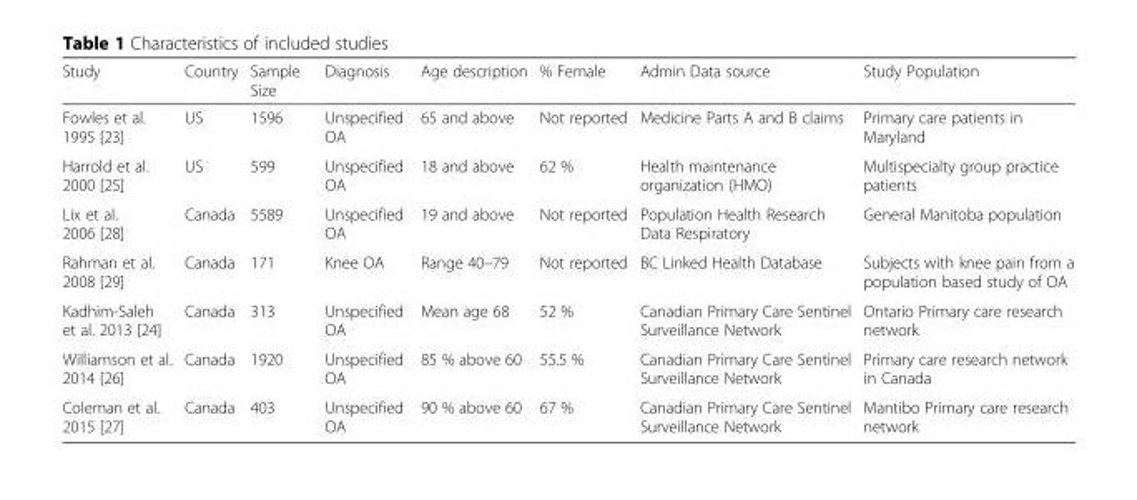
<table><thead><tr><td>Study</td><td>Country</td><td>Sample Size</td><td>Diagnosis</td><td>Age description</td><td>% Female</td><td>Admin Data source</td><td>Study Population</td></tr></thead><tbody><tr><td>Fowles et al. 1995 [23]</td><td>US</td><td>1596</td><td>Unspecified OA</td><td>65 and above</td><td>Not reported</td><td>Medicine Parts A and B claims</td><td>Primary care patients in Maryland</td></tr><tr><td>Harrold et al. 2000 [25]</td><td>US</td><td>599</td><td>Unspecified OA</td><td>18 and above</td><td>62 %</td><td>Health maintenance organization (HMO)</td><td>Multispecialty group practice patients</td></tr><tr><td>Lix et al. 2006 [28]</td><td>Canada</td><td>5589</td><td>Unspecified OA</td><td>19 and above</td><td>Not reported</td><td>Population Health Research Data Respiratory</td><td>General Manitoba population</td></tr><tr><td>Rahman et al. 2008 [29]</td><td>Canada</td><td>171</td><td>Knee OA</td><td>Range 40–79</td><td>Not reported</td><td>BC Linked Health Database</td><td>Subjects with knee pain from a population based study of OA</td></tr><tr><td>Kadhim-Saleh et al. 2013 [24]</td><td>Canada</td><td>313</td><td>Unspecified OA</td><td>Mean age 68</td><td>52 %</td><td>Canadian Primary Care Sentinel Surveillance Network</td><td>Ontario Primary care research network</td></tr><tr><td>Williamson et al. 2014 [26]</td><td>Canada</td><td>1920</td><td>Unspecified OA</td><td>85 % above 60</td><td>55.5 %</td><td>Canadian Primary Care Sentinel Surveillance Network</td><td>Primary care research network in Canada</td></tr><tr><td>Coleman et al. 2015 [27]</td><td>Canada</td><td>403</td><td>Unspecified OA</td><td>90 % above 60</td><td>67 %</td><td>Canadian Primary Care Sentinel Surveillance Network</td><td>Mantibo Primary care research network</td></tr></tbody></table>